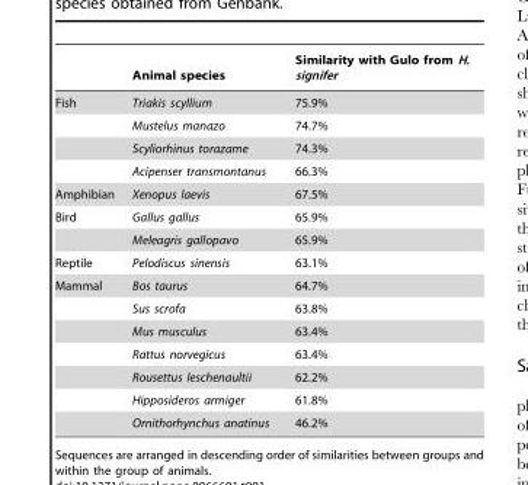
<table><thead><tr><td></td><td>Animal species</td><td>Similarity with Gulo from H. signifer</td></tr></thead><tbody><tr><td rowspan="4">Fish</td><td>Triakis scyllium</td><td>75.9%</td></tr><tr><td>Mustelus manazo</td><td>74.7%</td></tr><tr><td>Scyliorhinus torazame</td><td>74.3%</td></tr><tr><td>Acipenser transmontanus</td><td>66.3%</td></tr><tr><td>Amphibian</td><td>Xenopus laevis</td><td>67.5%</td></tr><tr><td rowspan="2">Bird</td><td>Gallus gallus</td><td>65.9%</td></tr><tr><td>Meleagris gallopavo</td><td>65.9%</td></tr><tr><td>Reptile</td><td>Pelodiscus sinensis</td><td>63.1%</td></tr><tr><td rowspan="7">Mammal</td><td>Bos taurus</td><td>64.7%</td></tr><tr><td>Sus scrofa</td><td>63.8%</td></tr><tr><td>Mus musculus</td><td>63.4%</td></tr><tr><td>Rattus norvegicus</td><td>63.4%</td></tr><tr><td>Rousettus leschenaultii</td><td>62.2%</td></tr><tr><td>Hipposideros armiger</td><td>61.8%</td></tr><tr><td>Ornithorhynchus anatinus</td><td>46.2%</td></tr></tbody></table>